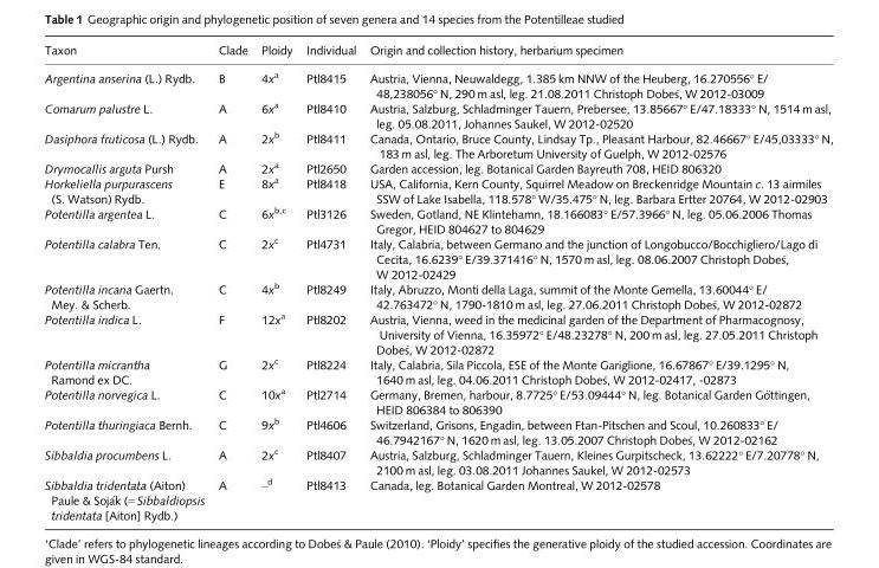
<table><thead><tr><td>Taxon</td><td>Clade</td><td>Ploidy</td><td>Individual</td><td>Origin and collection history, herbarium specimen</td></tr></thead><tbody><tr><td>Argentina anserina (L.) Rydb.</td><td>B</td><td>4x<sup>a</sup></td><td>Ptl8415</td><td>Austria, Vienna, Neuwaldegg, 1.385 km NNW of the Heuberg, 16.270556° E/ 48,238056° N, 290 m asl, leg. 21.08.2011 Christoph Dobe�s, W 2012-03009</td></tr><tr><td>Comarum palustre L.</td><td>A</td><td>6x<sup>a</sup></td><td>Ptl8410</td><td>Austria, Salzburg, Schladminger Tauern, Prebersee, 13.85667° E/47.18333° N, 1514 m asl, leg. 05.08.2011, Johannes Saukel, W 2012-02520</td></tr><tr><td>Dasiphora fruticosa (L.) Rydb.</td><td>A</td><td>2x<sup>b</sup></td><td>Ptl8411</td><td>Canada, Ontario, Bruce County, Lindsay Tp., Pleasant Harbour, 82.46667° E/45,03333° N, 183 m asl, leg. The Arboretum University of Guelph, W 2012-02576</td></tr><tr><td>Drymocallis arguta Pursh</td><td>A</td><td>2x<sup>a</sup></td><td>Ptl2650</td><td>Garden accession, leg. Botanical Garden Bayreuth 708, HEID 806320</td></tr><tr><td>Horkeliella purpurascens (S. Watson) Rydb.</td><td>E</td><td>8x<sup>a</sup></td><td>Ptl8418</td><td>USA, California, Kern County, Squirrel Meadow on Breckenridge Mountain c. 13 airmiles SSW of Lake Isabella, 118.578° W/35.475° N, leg. Barbara Ertter 20764, W 2012-02903</td></tr><tr><td>Potentilla argentea L.</td><td>C</td><td>6x<sup>b,c</sup></td><td>Ptl3126</td><td>Sweden, Gotland, NE Klintehamn, 18.166083° E/57.3966° N, leg. 05.06.2006 Thomas Gregor, HEID 804627 to 804629</td></tr><tr><td>Potentilla calabra Ten.</td><td>C</td><td>2xc</td><td>Ptl4731</td><td>Italy, Calabria, between Germano and the junction of Longobucco/Bocchigliero/Lago di Cecita, 16.6239° E/39.371416° N, 1570 m asl, leg. 08.06.2007 Christoph Dobe�s, W 2012-02429</td></tr><tr><td>Potentilla incana Gaertn. Mey. &amp; Scherb.</td><td>C</td><td>4x<sup>b</sup></td><td>Ptl8249</td><td>Italy, Abruzzo, Monti della Laga, summit of the Monte Gemella, 13.60044° E/ 42.763472° N, 1790-1810 m asl, leg. 27.06.2011 Christoph Dobe�s, W 2012-02872</td></tr><tr><td>Potentilla indica L.</td><td>F</td><td>12x<sup>a</sup></td><td>Ptl8202</td><td>Austria, Vienna, weed in the medicinal garden of the Department of Pharmacognosy, University of Vienna, 16.35972° E/48.23278° N, 200 m asl, leg. 27.05.2011 Christoph Dobe�s, W 2012-02872</td></tr><tr><td>Potentilla micrantha Ramond ex DC.</td><td>G</td><td>2xc</td><td>Ptl8224</td><td>Italy, Calabria, Sila Piccola, ESE of the Monte Gariglione, 16.67867° E/39.1295° N, 1640 m asl, leg. 04.06.2011 Christoph Dobe�s, W 2012-02417, -02873</td></tr><tr><td>Potentilla norvegica L.</td><td>C</td><td>10x<sup>a</sup></td><td>Ptl2714</td><td>Germany, Bremen, harbour, 8.7725° E/53.09444° N, leg. Botanical Garden G€ottingen, HEID 806384 to 806390</td></tr><tr><td>Potentilla thuringiaca Bernh.</td><td>C</td><td>9x<sup>b</sup></td><td>Ptl4606</td><td>Switzerland, Grisons, Engadin, between Ftan-Pitschen and Scoul, 10.260833° E/ 46.7942167° N, 1620 m asl, leg. 13.05.2007 Christoph Dobe�s, W 2012-02162</td></tr><tr><td>Sibbaldia procumbens L.</td><td>A</td><td>2xc</td><td>Ptl8407</td><td>Austria, Salzburg, Schladminger Tauern, Kleines Gurpitscheck, 13.62222° E/7.20778° N, 2100 m asl, leg. 03.08.2011 Johannes Saukel, W 2012-02573</td></tr><tr><td>Sibbaldia tridentata (Aiton) Paule &amp; Soj�ak (= Sibbaldiopsis tridentata [Aiton] Rydb.)</td><td>A</td><td>–d</td><td>Ptl8413</td><td>Canada, leg. Botanical Garden Montreal, W 2012-02578</td></tr></tbody></table>